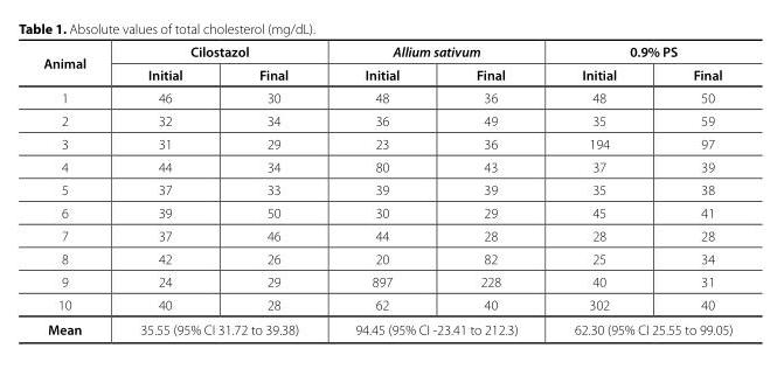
<table><thead><tr><td rowspan="2">Animal</td><td colspan="2">Cilostazol</td><td colspan="2">Allium sativum</td><td colspan="2">0.9% PS</td></tr><tr><td>Initial</td><td>Final</td><td>Initial</td><td>Final</td><td>Initial</td><td>Final</td></tr></thead><tbody><tr><td>1</td><td>46</td><td>30</td><td>48</td><td>36</td><td>48</td><td>50</td></tr><tr><td>2</td><td>32</td><td>34</td><td>36</td><td>49</td><td>35</td><td>59</td></tr><tr><td>3</td><td>31</td><td>29</td><td>23</td><td>36</td><td>194</td><td>97</td></tr><tr><td>4</td><td>44</td><td>34</td><td>80</td><td>43</td><td>37</td><td>39</td></tr><tr><td>5</td><td>37</td><td>33</td><td>39</td><td>39</td><td>35</td><td>38</td></tr><tr><td>6</td><td>39</td><td>50</td><td>30</td><td>29</td><td>45</td><td>41</td></tr><tr><td>7</td><td>37</td><td>46</td><td>44</td><td>28</td><td>28</td><td>28</td></tr><tr><td>8</td><td>42</td><td>26</td><td>20</td><td>82</td><td>25</td><td>34</td></tr><tr><td>9</td><td>24</td><td>29</td><td>897</td><td>228</td><td>40</td><td>31</td></tr><tr><td>10</td><td>40</td><td>28</td><td>62</td><td>40</td><td>302</td><td>40</td></tr><tr><td>Mean</td><td colspan="2">35.55 (95% CI 31.72 to 39.38)</td><td colspan="2">94.45 (95% CI -23.41 to 212.3)</td><td colspan="2">62.30 (95% CI 25.55 to 99.05)</td></tr></tbody></table>